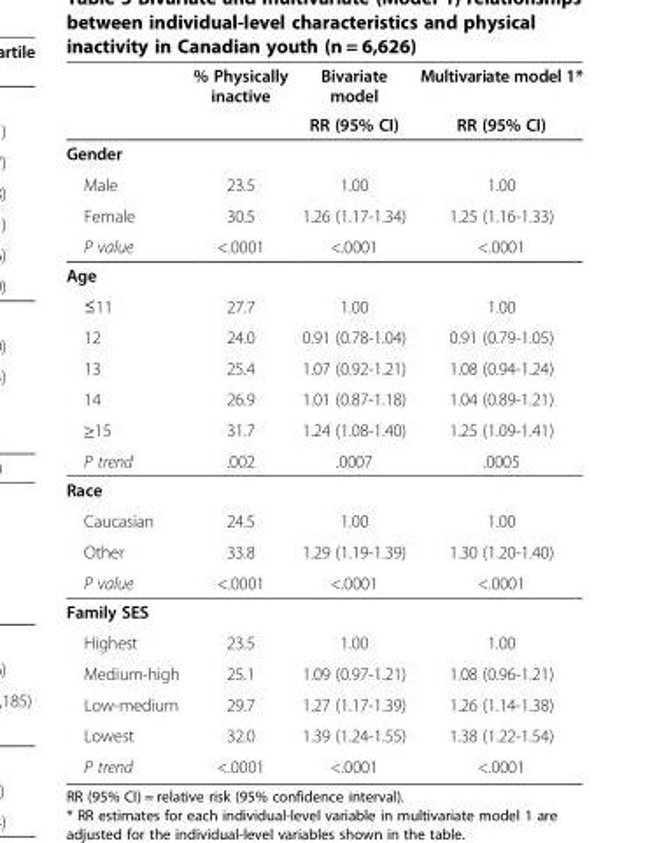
<table><thead><tr><td rowspan="2"></td><td rowspan="2">% Physically inactive</td><td rowspan="2">Bivariate model RR (95% CI)</td><td rowspan="2">Multivariate model 1* RR (95% CI)</td></tr><tr></tr></thead><tbody><tr><td colspan="4">Gender</td></tr><tr><td>Male</td><td>23.5</td><td>1.00</td><td>1.00</td></tr><tr><td>Female</td><td>30.5</td><td>1.26 (1.17-1.34)</td><td>1.25 (1.16-1.33)</td></tr><tr><td>P value</td><td>&lt;.0001</td><td>&lt;.0001</td><td>&lt;.0001</td></tr><tr><td colspan="4">Age</td></tr><tr><td>≤11</td><td>27.7</td><td>1.00</td><td>1.00</td></tr><tr><td>12</td><td>24.0</td><td>0.91 (0.78-1.04)</td><td>0.91 (0.79-1.05)</td></tr><tr><td>13</td><td>25.4</td><td>1.07 (0.92-1.21)</td><td>1.08 (0.94-1.24)</td></tr><tr><td>14</td><td>26.9</td><td>1.01 (0.87-1.18)</td><td>1.04 (0.89-1.21)</td></tr><tr><td>≥15</td><td>31.7</td><td>1.24 (1.08-1.40)</td><td>1.25 (1.09-1.41)</td></tr><tr><td>P trend</td><td>.002</td><td>.0007</td><td>.0005</td></tr><tr><td colspan="4">Race</td></tr><tr><td>Caucasian</td><td>24.5</td><td>1.00</td><td>1.00</td></tr><tr><td>Other</td><td>33.8</td><td>1.29 (1.19-1.39)</td><td>1.30 (1.20-1.40)</td></tr><tr><td>P value</td><td>&lt;.0001</td><td>&lt;.0001</td><td>&lt;.0001</td></tr><tr><td colspan="4">Family SES</td></tr><tr><td>Highest</td><td>23.5</td><td>1.00</td><td>1.00</td></tr><tr><td>Medium-high</td><td>25.1</td><td>1.09 (0.97-1.21)</td><td>1.08 (0.96-1.21)</td></tr><tr><td>Low-medium</td><td>29.7</td><td>1.27 (1.17-1.39)</td><td>1.26 (1.14-1.38)</td></tr><tr><td>Lowest</td><td>32.0</td><td>1.39 (1.24-1.55)</td><td>1.38 (1.22-1.54)</td></tr><tr><td>P trend</td><td>&lt;.0001</td><td>&lt;.0001</td><td>&lt;.0001</td></tr></tbody></table>